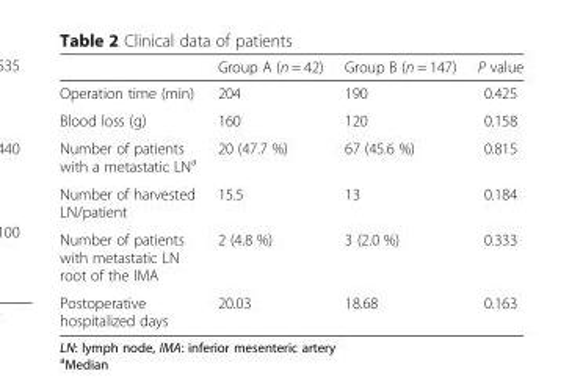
<table><thead><tr><td></td><td>Group A (n = 42)</td><td>Group B (n = 147)</td><td>P value</td></tr></thead><tbody><tr><td>Operation time (min)</td><td>204</td><td>190</td><td>0.425</td></tr><tr><td>Blood loss (g)</td><td>160</td><td>120</td><td>0.158</td></tr><tr><td>Number of patients with a metastatic LN<sup>a</sup></td><td>20 (47.7 %)</td><td>67 (45.6 %)</td><td>0.815</td></tr><tr><td>Number of harvested LN/patient</td><td>15.5</td><td>13</td><td>0.184</td></tr><tr><td>Number of patients with metastatic LN root of the IMA</td><td>2 (4.8 %)</td><td>3 (2.0 %)</td><td>0.333</td></tr><tr><td>Postoperative hospitalized days</td><td>20.03</td><td>18.68</td><td>0.163</td></tr></tbody></table>